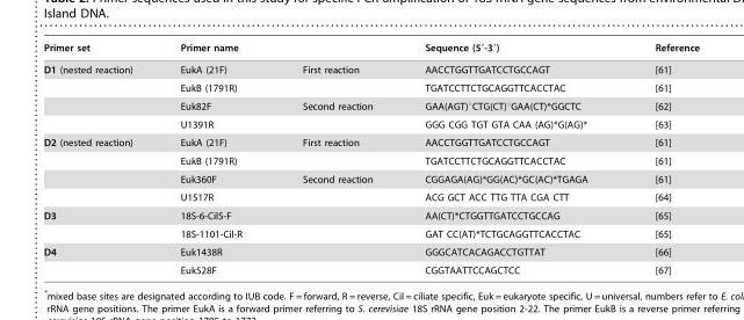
<table><thead><tr><td>Primer set</td><td>Primer name</td><td></td><td>Sequence (5′-3′)</td><td>Reference</td></tr></thead><tbody><tr><td rowspan="4">D1 (nested reaction)</td><td>EukA (21F)</td><td>First reaction</td><td>AACCTGGTTGATCCTGCCAGT</td><td>[61]</td></tr><tr><td>EukB (1791R)</td><td></td><td>TGATCCTTCTGCAGGTTCACCTAC</td><td>[61]</td></tr><tr><td>Euk82F</td><td>Second reaction</td><td>GAA(AGT)°CTG(CT)°GAA(CT)*GGCTC</td><td>[62]</td></tr><tr><td>U1391R</td><td></td><td>GGG CGG TGT GTA CAA (AG)*G(AG)*</td><td>[63]</td></tr><tr><td rowspan="4">D2 (nested reaction)</td><td>EukA (21F)</td><td>First reaction</td><td>AACCTGGTTGATCCTGCCAGT</td><td>[61]</td></tr><tr><td>EukB (1791R)</td><td></td><td>TGATCCTTCTGCAGGTTCACCTAC</td><td>[61]</td></tr><tr><td>Euk360F</td><td>Second reaction</td><td>CGGAGA(AG)*GG(AC)*GC(AC)*TGAGA</td><td>[61]</td></tr><tr><td>U1517R</td><td></td><td>ACG GCT ACC TTG TTA CGA CTT</td><td>[64]</td></tr><tr><td rowspan="2">D3</td><td>18S-6-Cil5-F</td><td></td><td>AA(CT)*CTGGTTGATCCTGCCAG</td><td>[65]</td></tr><tr><td>18S-1101-Cil-R</td><td></td><td>GAT CC(AT)*TCTGCAGGTTCACCTAC</td><td>[65]</td></tr><tr><td rowspan="2">D4</td><td>Euk1438R</td><td></td><td>GGGCATCACAGACCTGTTAT</td><td>[66]</td></tr><tr><td>Euk528F</td><td></td><td>CGGTAATTCCAGCTCC</td><td>[67]</td></tr></tbody></table>